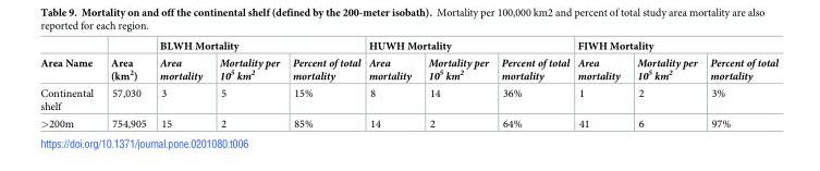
<table><thead><tr><td rowspan="2">Area Name</td><td rowspan="2">Area (km<sup>2</sup>)</td><td colspan="3">BLWH Mortality</td><td colspan="3">HUWH Mortality</td><td colspan="3">FIWH Mortality</td></tr><tr><td>Area mortality</td><td>Mortality per 10<sup>5</sup> km<sup>2</sup></td><td>Percent of total mortality</td><td>Area mortality</td><td>Mortality per 10<sup>5</sup> km<sup>2</sup></td><td>Percent of total mortality</td><td>Area mortality</td><td>Mortality per 10<sup>5</sup> km<sup>2</sup></td><td>Percent of total mortality</td></tr></thead><tbody><tr><td>Continental shelf</td><td>57,030</td><td>3</td><td>5</td><td>15%</td><td>8</td><td>14</td><td>36%</td><td>1</td><td>2</td><td>3%</td></tr><tr><td>&gt;200m</td><td>754,905</td><td>15</td><td>2</td><td>85%</td><td>14</td><td>2</td><td>64%</td><td>41</td><td>6</td><td>97%</td></tr></tbody></table>